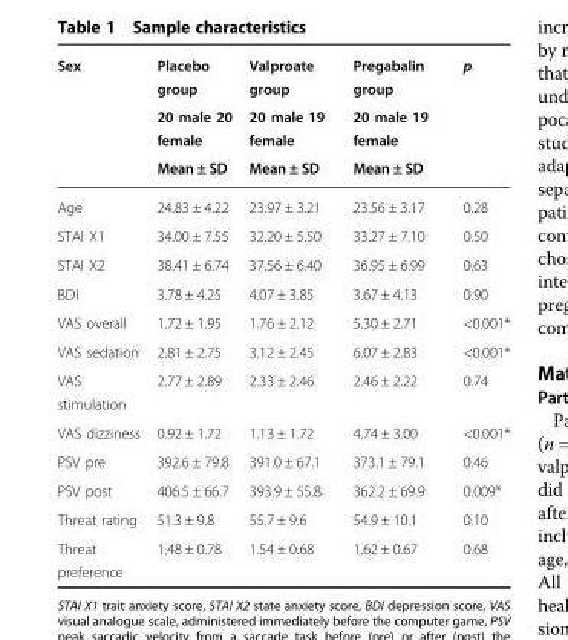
<table><thead><tr><td rowspan="3">Sex</td><td rowspan="3">Placebo group 20 male 20 female Mean ± SD</td><td rowspan="3">Valproate group 20 male 19 female Mean ± SD</td><td rowspan="3">Pregabalin group 20 male 19 female Mean ± SD</td><td rowspan="3">p</td></tr><tr></tr><tr></tr></thead><tbody><tr><td>Age</td><td>24.83 ± 4.22</td><td>23.97 ± 3.21</td><td>23.56 ± 3.17</td><td>0.28</td></tr><tr><td>STAI X1</td><td>34.00 ± 7.55</td><td>32.20 ± 5.50</td><td>33.27 ± 7.10</td><td>0.50</td></tr><tr><td>STAI X2</td><td>38.41 ± 6.74</td><td>37.56 ± 6.40</td><td>36.95 ± 6.99</td><td>0.63</td></tr><tr><td>BDI</td><td>3.78 ± 4.25</td><td>4.07 ± 3.85</td><td>3.67 ± 4.13</td><td>0.90</td></tr><tr><td>VAS overall</td><td>1.72 ± 1.95</td><td>1.76 ± 2.12</td><td>5.30 ± 2.71</td><td>&lt;0.001*</td></tr><tr><td>VAS sedation</td><td>2.81 ± 2.75</td><td>3.12 ± 2.45</td><td>6.07 ± 2.83</td><td>&lt;0.001*</td></tr><tr><td>VAS stimulation</td><td>2.77 ± 2.89</td><td>2.33 ± 2.46</td><td>2.46 ± 2.22</td><td>0.74</td></tr><tr><td>VAS dizziness</td><td>0.92 ± 1.72</td><td>1.13 ± 1.72</td><td>4.74 ± 3.00</td><td>&lt;0.001*</td></tr><tr><td>PSV pre</td><td>392.6 ± 79.8</td><td>391.0 ± 67.1</td><td>373.1 ± 79.1</td><td>0.46</td></tr><tr><td>PSV post</td><td>406.5 ± 66.7</td><td>393.9 ± 55.8</td><td>362.2 ± 69.9</td><td>0.009*</td></tr><tr><td>Threat rating</td><td>51.3 ± 9.8</td><td>55.7 ± 9.6</td><td>54.9 ± 10.1</td><td>0.10</td></tr><tr><td>Threat preference</td><td>1.48 ± 0.78</td><td>1.54 ± 0.68</td><td>1.62 ± 0.67</td><td>0.68</td></tr></tbody></table>